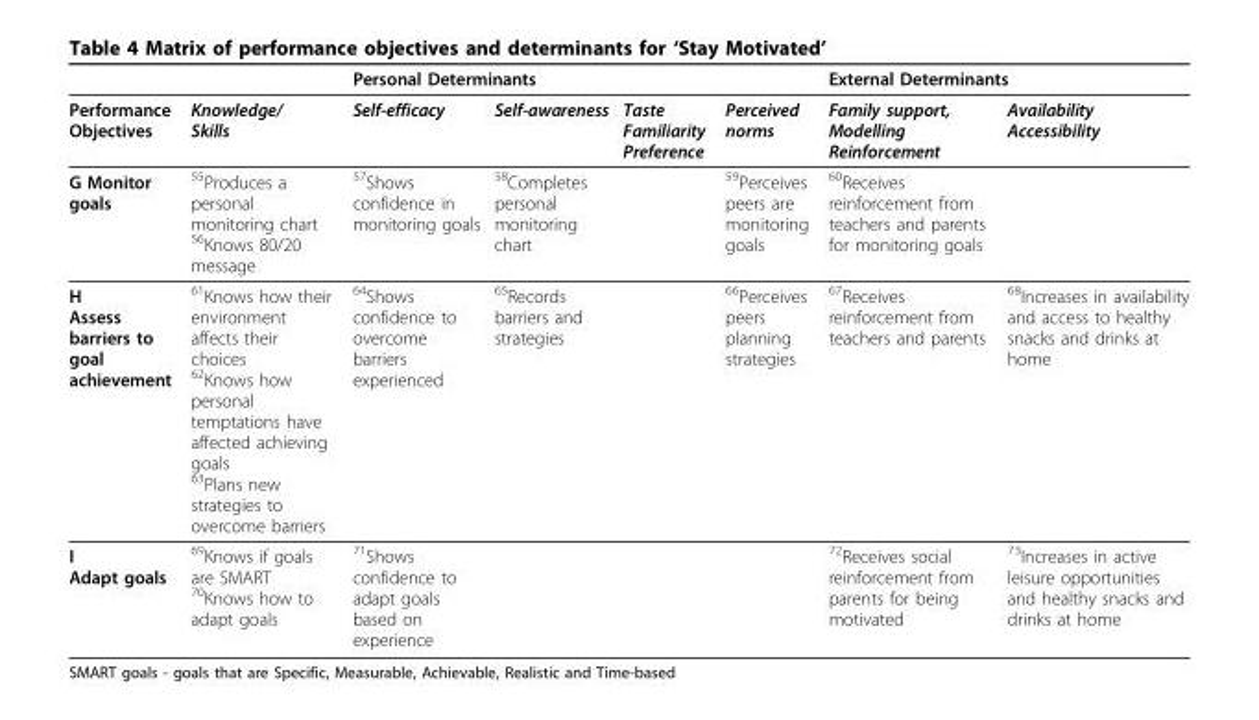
<table><thead><tr><td rowspan="2">Performance Objectives</td><td rowspan="2">Knowledge/ Skills</td><td colspan="4">Personal Determinants</td><td colspan="2">External Determinants</td></tr><tr><td>Self-efficacy</td><td>Self-awareness</td><td>Taste Familiarity Preference</td><td>Perceived norms</td><td>Family support, Modelling Reinforcement</td><td>Availability Accessibility</td></tr></thead><tbody><tr><td>G Monitor goals</td><td>55Produces a personal monitoring chart 56Knows 80/20 message</td><td>57Shows confidence in monitoring goals</td><td>58Completes personal monitoring chart</td><td></td><td>59Perceives peers are monitoring goals</td><td>60Receives reinforcement from teachers and parents for monitoring goals</td><td></td></tr><tr><td>H Assess barriers to goal achievement</td><td>61Knows how their environment affects their choices 62Knows how personal temptations have affected achieving goals 63Plans new strategies to overcome barriers</td><td>64Shows confidence to overcome barriers experienced</td><td>65Records barriers and strategies</td><td></td><td>66Perceives peers planning strategies</td><td>67Receives reinforcement from teachers and parents</td><td>68Increases in availability and access to healthy snacks and drinks at home</td></tr><tr><td>I Adapt goals</td><td>69Knows if goals are SMART 70Knows how to adapt goals</td><td>71Shows confidence to adapt goals based on experience</td><td></td><td></td><td></td><td>72Receives social reinforcement from parents for being motivated</td><td>73Increases in active leisure opportunities and healthy snacks and drinks at home</td></tr></tbody></table>